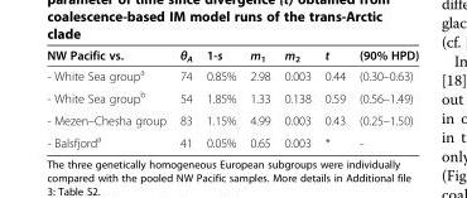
<table><thead><tr><td>NW Pacific vs.</td><td>θ<sub>A</sub></td><td>1-s</td><td>m<sub>1</sub></td><td>m<sub>2</sub></td><td>t</td><td>(90% HPD)</td></tr></thead><tbody><tr><td>- White Sea group<sup>a</sup></td><td>74</td><td>0.85%</td><td>2.98</td><td>0.003</td><td>0.44</td><td>(0.30–0.63)</td></tr><tr><td>- White Sea group<sup>b</sup></td><td>54</td><td>1.85%</td><td>1.33</td><td>0.138</td><td>0.59</td><td>(0.56–1.49)</td></tr><tr><td>- Mezen–Chesha group</td><td>83</td><td>1.15%</td><td>4.99</td><td>0.003</td><td>0.43</td><td>(0.25–1.50)</td></tr><tr><td>- Balsfjord<sup>a</sup></td><td>41</td><td>0.05%</td><td>0.65</td><td>0.003</td><td>*</td><td>-</td></tr></tbody></table>